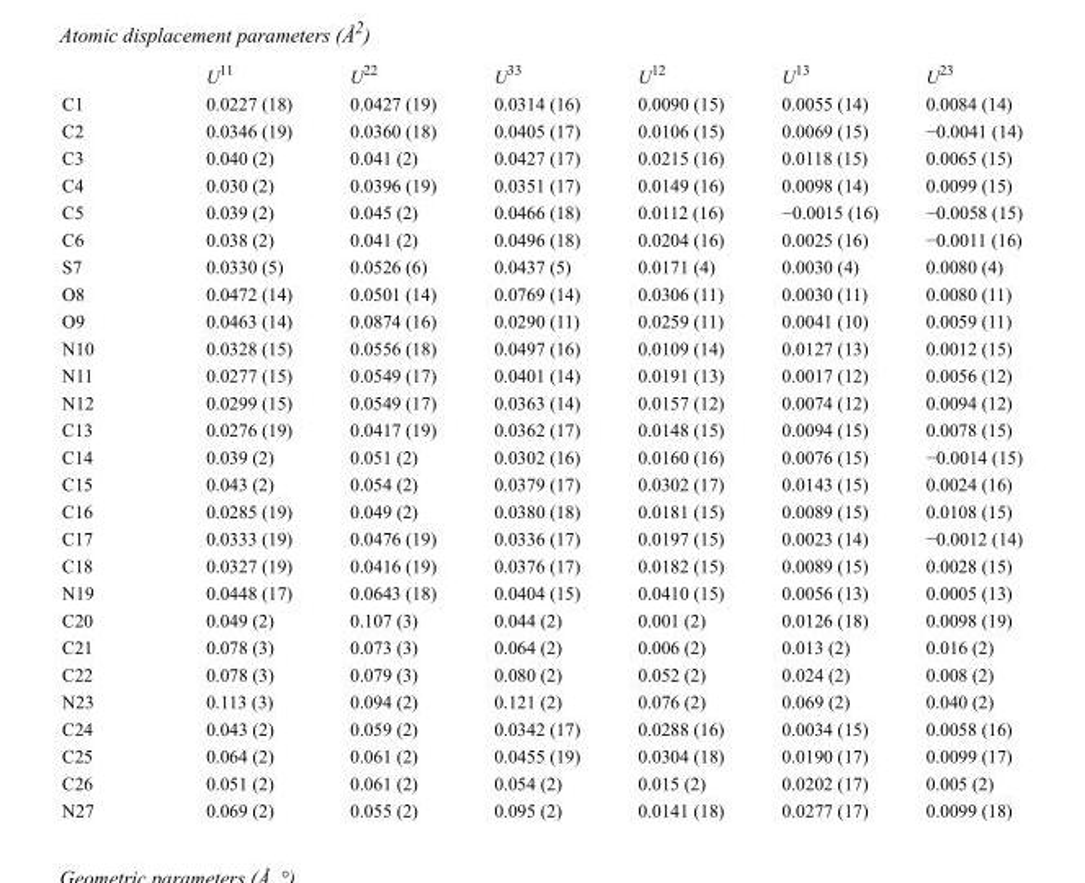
<table><thead><tr><td></td><td>U<sup>11</sup></td><td>U<sup>22</sup></td><td>U<sup>33</sup></td><td>U<sup>12</sup></td><td>U<sup>13</sup></td><td>U<sup>23</sup></td></tr></thead><tbody><tr><td>C1</td><td>0.0227 (18)</td><td>0.0427 (19)</td><td>0.0314 (16)</td><td>0.0090 (15)</td><td>0.0055 (14)</td><td>0.0084 (14)</td></tr><tr><td>C2</td><td>0.0346 (19)</td><td>0.0360 (18)</td><td>0.0405 (17)</td><td>0.0106 (15)</td><td>0.0069 (15)</td><td>−0.0041 (14)</td></tr><tr><td>C3</td><td>0.040 (2)</td><td>0.041 (2)</td><td>0.0427 (17)</td><td>0.0215 (16)</td><td>0.0118 (15)</td><td>0.0065 (15)</td></tr><tr><td>C4</td><td>0.030 (2)</td><td>0.0396 (19)</td><td>0.0351 (17)</td><td>0.0149 (16)</td><td>0.0098 (14)</td><td>0.0099 (15)</td></tr><tr><td>C5</td><td>0.039 (2)</td><td>0.045 (2)</td><td>0.0466 (18)</td><td>0.0112 (16)</td><td>−0.0015 (16)</td><td>−0.0058 (15)</td></tr><tr><td>C6</td><td>0.038 (2)</td><td>0.041 (2)</td><td>0.0496 (18)</td><td>0.0204 (16)</td><td>0.0025 (16)</td><td>−0.0011 (16)</td></tr><tr><td>S7</td><td>0.0330 (5)</td><td>0.0526 (6)</td><td>0.0437 (5)</td><td>0.0171 (4)</td><td>0.0030 (4)</td><td>0.0080 (4)</td></tr><tr><td>O8</td><td>0.0472 (14)</td><td>0.0501 (14)</td><td>0.0769 (14)</td><td>0.0306 (11)</td><td>0.0030 (11)</td><td>0.0080 (11)</td></tr><tr><td>O9</td><td>0.0463 (14)</td><td>0.0874 (16)</td><td>0.0290 (11)</td><td>0.0259 (11)</td><td>0.0041 (10)</td><td>0.0059 (11)</td></tr><tr><td>N10</td><td>0.0328 (15)</td><td>0.0556 (18)</td><td>0.0497 (16)</td><td>0.0109 (14)</td><td>0.0127 (13)</td><td>0.0012 (15)</td></tr><tr><td>N11</td><td>0.0277 (15)</td><td>0.0549 (17)</td><td>0.0401 (14)</td><td>0.0191 (13)</td><td>0.0017 (12)</td><td>0.0056 (12)</td></tr><tr><td>N12</td><td>0.0299 (15)</td><td>0.0549 (17)</td><td>0.0363 (14)</td><td>0.0157 (12)</td><td>0.0074 (12)</td><td>0.0094 (12)</td></tr><tr><td>C13</td><td>0.0276 (19)</td><td>0.0417 (19)</td><td>0.0362 (17)</td><td>0.0148 (15)</td><td>0.0094 (15)</td><td>0.0078 (15)</td></tr><tr><td>C14</td><td>0.039 (2)</td><td>0.051 (2)</td><td>0.0302 (16)</td><td>0.0160 (16)</td><td>0.0076 (15)</td><td>−0.0014 (15)</td></tr><tr><td>C15</td><td>0.043 (2)</td><td>0.054 (2)</td><td>0.0379 (17)</td><td>0.0302 (17)</td><td>0.0143 (15)</td><td>0.0024 (16)</td></tr><tr><td>C16</td><td>0.0285 (19)</td><td>0.049 (2)</td><td>0.0380 (18)</td><td>0.0181 (15)</td><td>0.0089 (15)</td><td>0.0108 (15)</td></tr><tr><td>C17</td><td>0.0333 (19)</td><td>0.0476 (19)</td><td>0.0336 (17)</td><td>0.0197 (15)</td><td>0.0023 (14)</td><td>−0.0012 (14)</td></tr><tr><td>C18</td><td>0.0327 (19)</td><td>0.0416 (19)</td><td>0.0376 (17)</td><td>0.0182 (15)</td><td>0.0089 (15)</td><td>0.0028 (15)</td></tr><tr><td>N19</td><td>0.0448 (17)</td><td>0.0643 (18)</td><td>0.0404 (15)</td><td>0.0410 (15)</td><td>0.0056 (13)</td><td>0.0005 (13)</td></tr><tr><td>C20</td><td>0.049 (2)</td><td>0.107 (3)</td><td>0.044 (2)</td><td>0.001 (2)</td><td>0.0126 (18)</td><td>0.0098 (19)</td></tr><tr><td>C21</td><td>0.078 (3)</td><td>0.073 (3)</td><td>0.064 (2)</td><td>0.006 (2)</td><td>0.013 (2)</td><td>0.016 (2)</td></tr><tr><td>C22</td><td>0.078 (3)</td><td>0.079 (3)</td><td>0.080 (2)</td><td>0.052 (2)</td><td>0.024 (2)</td><td>0.008 (2)</td></tr><tr><td>N23</td><td>0.113 (3)</td><td>0.094 (2)</td><td>0.121 (2)</td><td>0.076 (2)</td><td>0.069 (2)</td><td>0.040 (2)</td></tr><tr><td>C24</td><td>0.043 (2)</td><td>0.059 (2)</td><td>0.0342 (17)</td><td>0.0288 (16)</td><td>0.0034 (15)</td><td>0.0058 (16)</td></tr><tr><td>C25</td><td>0.064 (2)</td><td>0.061 (2)</td><td>0.0455 (19)</td><td>0.0304 (18)</td><td>0.0190 (17)</td><td>0.0099 (17)</td></tr><tr><td>C26</td><td>0.051 (2)</td><td>0.061 (2)</td><td>0.054 (2)</td><td>0.015 (2)</td><td>0.0202 (17)</td><td>0.005 (2)</td></tr><tr><td>N27</td><td>0.069 (2)</td><td>0.055 (2)</td><td>0.095 (2)</td><td>0.0141 (18)</td><td>0.0277 (17)</td><td>0.0099 (18)</td></tr></tbody></table>